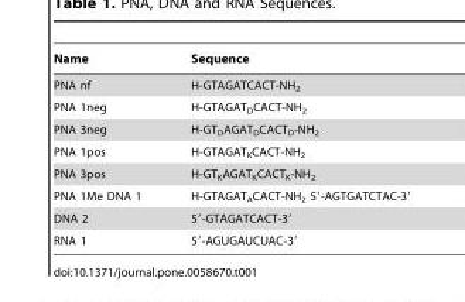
<table><thead><tr><td>Name</td><td>Sequence</td></tr></thead><tbody><tr><td>PNA nf</td><td>H-GTAGATCACT-NH<sub>2</sub></td></tr><tr><td>PNA 1neg</td><td>H-GTAGAT<sub>D</sub>CACT-NH<sub>2</sub></td></tr><tr><td>PNA 3neg</td><td>H-GT<sub>D</sub>AGAT<sub>D</sub>CACT<sub>D</sub>-NH<sub>2</sub></td></tr><tr><td>PNA 1pos</td><td>H-GTAGAT<sub>K</sub>CACT-NH<sub>2</sub></td></tr><tr><td>PNA 3pos</td><td>H-GT<sub>K</sub>AGAT<sub>K</sub>CACT<sub>K</sub>-NH<sub>2</sub></td></tr><tr><td>PNA 1Me DNA 1</td><td>H-GTAGAT<sub>A</sub>CACT-NH<sub>2</sub> 5′-AGTGATCTAC-3′</td></tr><tr><td>DNA 2</td><td>5′-GTAGATCACT-3′</td></tr><tr><td>RNA 1</td><td>5′-AGUGAUCUAC-3′</td></tr></tbody></table>